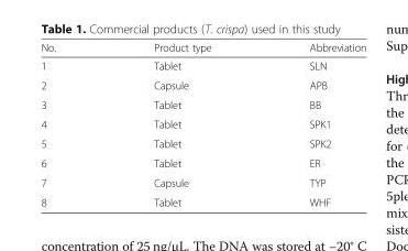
<table><thead><tr><td>No.</td><td>Product type</td><td>Abbreviation</td></tr></thead><tbody><tr><td>1</td><td>Tablet</td><td>SLN</td></tr><tr><td>2</td><td>Capsule</td><td>APB</td></tr><tr><td>3</td><td>Tablet</td><td>BB</td></tr><tr><td>4</td><td>Tablet</td><td>SPK1</td></tr><tr><td>5</td><td>Tablet</td><td>SPK2</td></tr><tr><td>6</td><td>Tablet</td><td>ER</td></tr><tr><td>7</td><td>Capsule</td><td>TYP</td></tr><tr><td>8</td><td>Tablet</td><td>WHF</td></tr></tbody></table>